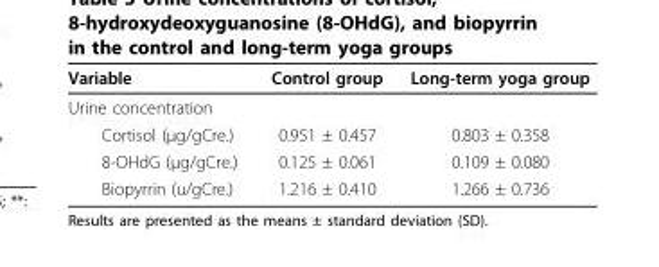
<table><thead><tr><td>Variable</td><td>Control group</td><td>Long-term yoga group</td></tr></thead><tbody><tr><td colspan="3">Urine concentration</td></tr><tr><td>Cortisol (μg/gCre.)</td><td>0.951 ± 0.457</td><td>0.803 ± 0.358</td></tr><tr><td>8-OHdG (μg/gCre.)</td><td>0.125 ± 0.061</td><td>0.109 ± 0.080</td></tr><tr><td>Biopyrrin (u/gCre.)</td><td>1.216 ± 0.410</td><td>1.266 ± 0.736</td></tr></tbody></table>